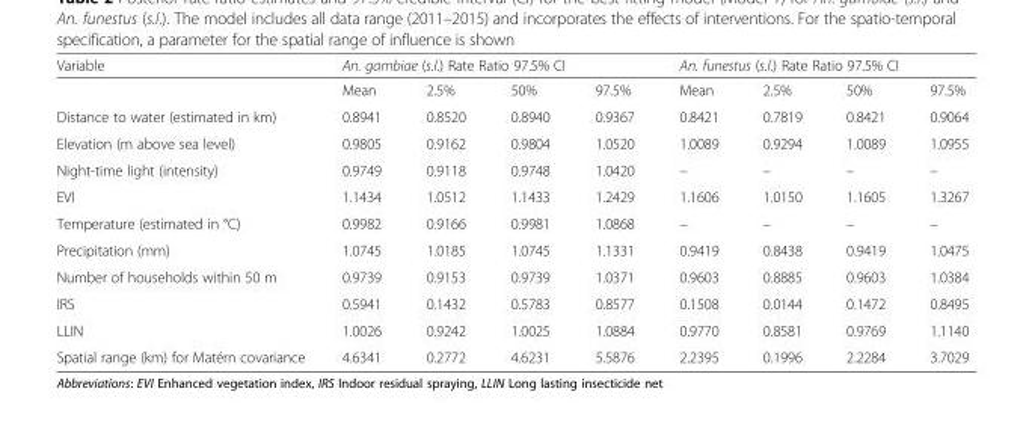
<table><thead><tr><td rowspan="2">Variable</td><td colspan="4">An. gambiae (s.l.) Rate Ratio 97.5% CI</td><td colspan="4">An. funestus (s.l.) Rate Ratio 97.5% CI</td></tr><tr><td>Mean</td><td>2.5%</td><td>50%</td><td>97.5%</td><td>Mean</td><td>2.5%</td><td>50%</td><td>97.5%</td></tr></thead><tbody><tr><td>Distance to water (estimated in km)</td><td>0.8941</td><td>0.8520</td><td>0.8940</td><td>0.9367</td><td>0.8421</td><td>0.7819</td><td>0.8421</td><td>0.9064</td></tr><tr><td>Elevation (m above sea level)</td><td>0.9805</td><td>0.9162</td><td>0.9804</td><td>1.0520</td><td>1.0089</td><td>0.9294</td><td>1.0089</td><td>1.0955</td></tr><tr><td>Night-time light (intensity)</td><td>0.9749</td><td>0.9118</td><td>0.9748</td><td>1.0420</td><td>–</td><td>–</td><td>–</td><td>–</td></tr><tr><td>EVI</td><td>1.1434</td><td>1.0512</td><td>1.1433</td><td>1.2429</td><td>1.1606</td><td>1.0150</td><td>1.1605</td><td>1.3267</td></tr><tr><td>Temperature (estimated in °C)</td><td>0.9982</td><td>0.9166</td><td>0.9981</td><td>1.0868</td><td>–</td><td>–</td><td>–</td><td>–</td></tr><tr><td>Precipitation (mm)</td><td>1.0745</td><td>1.0185</td><td>1.0745</td><td>1.1331</td><td>0.9419</td><td>0.8438</td><td>0.9419</td><td>1.0475</td></tr><tr><td>Number of households within 50 m</td><td>0.9739</td><td>0.9153</td><td>0.9739</td><td>1.0371</td><td>0.9603</td><td>0.8885</td><td>0.9603</td><td>1.0384</td></tr><tr><td>IRS</td><td>0.5941</td><td>0.1432</td><td>0.5783</td><td>0.8577</td><td>0.1508</td><td>0.0144</td><td>0.1472</td><td>0.8495</td></tr><tr><td>LLIN</td><td>1.0026</td><td>0.9242</td><td>1.0025</td><td>1.0884</td><td>0.9770</td><td>0.8581</td><td>0.9769</td><td>1.1140</td></tr><tr><td>Spatial range (km) for Matérn covariance</td><td>4.6341</td><td>0.2772</td><td>4.6231</td><td>5.5876</td><td>2.2395</td><td>0.1996</td><td>2.2284</td><td>3.7029</td></tr></tbody></table>